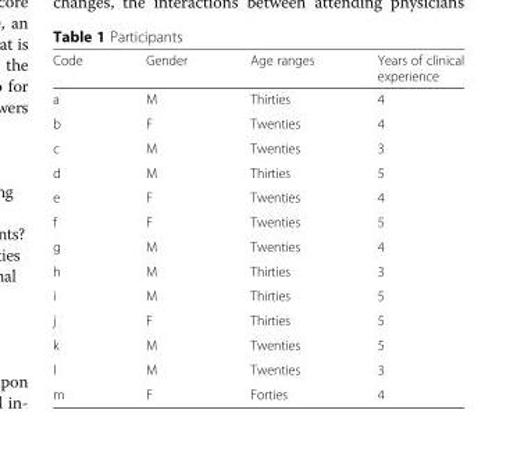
<table><thead><tr><td>Code</td><td>Gender</td><td>Age ranges</td><td>Years of clinical experience</td></tr></thead><tbody><tr><td>a</td><td>M</td><td>Thirties</td><td>4</td></tr><tr><td>b</td><td>F</td><td>Twenties</td><td>4</td></tr><tr><td>c</td><td>M</td><td>Twenties</td><td>3</td></tr><tr><td>d</td><td>M</td><td>Thirties</td><td>5</td></tr><tr><td>e</td><td>F</td><td>Twenties</td><td>4</td></tr><tr><td>f</td><td>F</td><td>Twenties</td><td>5</td></tr><tr><td>g</td><td>M</td><td>Twenties</td><td>4</td></tr><tr><td>h</td><td>M</td><td>Thirties</td><td>3</td></tr><tr><td>i</td><td>M</td><td>Thirties</td><td>5</td></tr><tr><td>j</td><td>F</td><td>Thirties</td><td>5</td></tr><tr><td>k</td><td>M</td><td>Twenties</td><td>5</td></tr><tr><td>l</td><td>M</td><td>Twenties</td><td>3</td></tr><tr><td>m</td><td>F</td><td>Forties</td><td>4</td></tr></tbody></table>